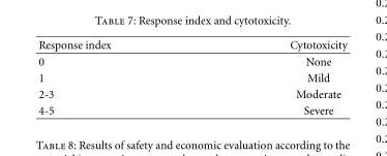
<table><thead><tr><td>Response index</td><td>Cytotoxicity</td></tr></thead><tbody><tr><td>0</td><td>None</td></tr><tr><td>1</td><td>Mild</td></tr><tr><td>2-3</td><td>Moderate</td></tr><tr><td>4-5</td><td>Severe</td></tr></tbody></table>